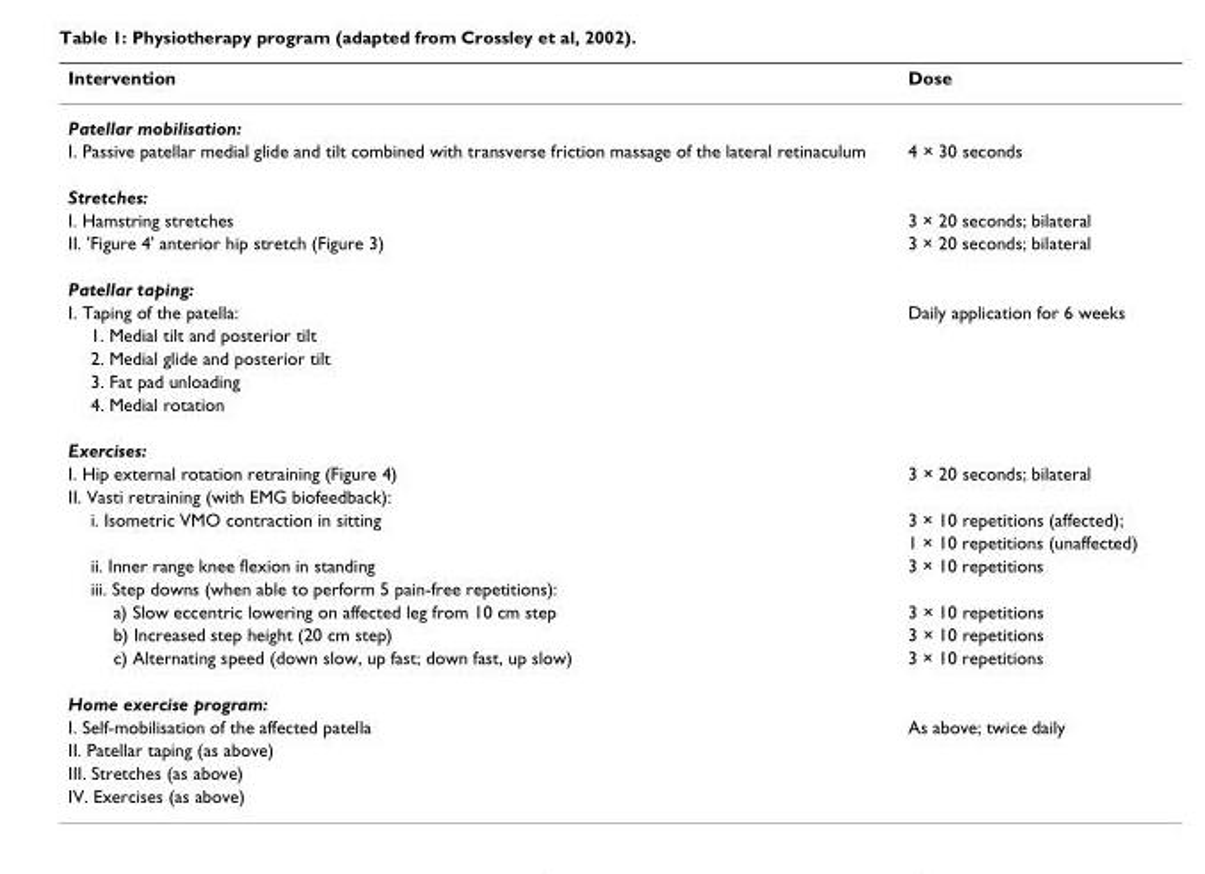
<table><thead><tr><td>Intervention</td><td>Dose</td></tr></thead><tbody><tr><td colspan="2">Patellar mobilisation:</td></tr><tr><td>I. Passive patellar medial glide and tilt combined with transverse friction massage of the lateral retinaculum</td><td>4 × 30 seconds</td></tr><tr><td colspan="2">Stretches:</td></tr><tr><td>I. Hamstring stretches</td><td>3 × 20 seconds; bilateral</td></tr><tr><td>II. &#x27;Figure 4&#x27; anterior hip stretch (Figure 3)</td><td>3 × 20 seconds; bilateral</td></tr><tr><td colspan="2">Patellar taping:</td></tr><tr><td>I. Taping of the patella:</td><td>Daily application for 6 weeks</td></tr><tr><td colspan="2">1. Medial tilt and posterior tilt</td></tr><tr><td colspan="2">2. Medial glide and posterior tilt</td></tr><tr><td colspan="2">3. Fat pad unloading</td></tr><tr><td colspan="2">4. Medial rotation</td></tr><tr><td colspan="2">Exercises:</td></tr><tr><td>I. Hip external rotation retraining (Figure 4)</td><td>3 × 20 seconds; bilateral</td></tr><tr><td colspan="2">II. Vasti retraining (with EMG biofeedback):</td></tr><tr><td rowspan="2">i. Isometric VMO contraction in sitting</td><td>3 × 10 repetitions (affected);</td></tr><tr><td>1 × 10 repetitions (unaffected)</td></tr><tr><td>ii. Inner range knee flexion in standing</td><td>3 × 10 repetitions</td></tr><tr><td colspan="2">iii. Step downs (when able to perform 5 pain-free repetitions):</td></tr><tr><td>a) Slow eccentric lowering on affected leg from 10 cm step</td><td>3 × 10 repetitions</td></tr><tr><td>b) Increased step height (20 cm step)</td><td>3 × 10 repetitions</td></tr><tr><td>c) Alternating speed (down slow, up fast; down fast, up slow)</td><td>3 × 10 repetitions</td></tr><tr><td colspan="2">Home exercise program:</td></tr><tr><td>I. Self-mobilisation of the affected patella</td><td>As above; twice daily</td></tr><tr><td colspan="2">II. Patellar taping (as above)</td></tr><tr><td colspan="2">III. Stretches (as above)</td></tr><tr><td>IV. Exercises (as above)</td><td></td></tr></tbody></table>